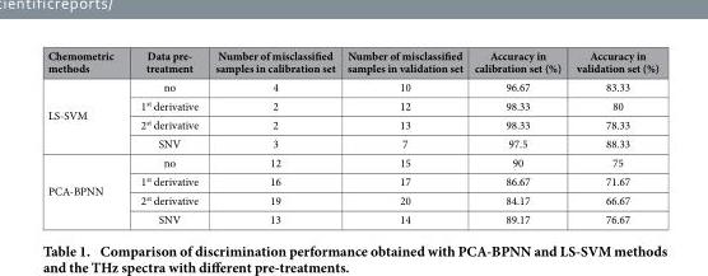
<table><thead><tr><td>Chemometric methods</td><td>Data pre- treatment</td><td>Number of misclassified samples in calibration set</td><td>Number of misclassified samples in validation set</td><td>Accuracy in calibration set (%)</td><td>Accuracy in validation set (%)</td></tr></thead><tbody><tr><td rowspan="4">LS-SVM</td><td>no</td><td>4</td><td>10</td><td>96.67</td><td>83.33</td></tr><tr><td>1<sup>st</sup> derivative</td><td>2</td><td>12</td><td>98.33</td><td>80</td></tr><tr><td>2<sup>st</sup> derivative</td><td>2</td><td>13</td><td>98.33</td><td>78.33</td></tr><tr><td>SNV</td><td>3</td><td>7</td><td>97.5</td><td>88.33</td></tr><tr><td rowspan="4">PCA-BPNN</td><td>no</td><td>12</td><td>15</td><td>90</td><td>75</td></tr><tr><td>1<sup>st</sup> derivative</td><td>16</td><td>17</td><td>86.67</td><td>71.67</td></tr><tr><td>2<sup>st</sup> derivative</td><td>19</td><td>20</td><td>84.17</td><td>66.67</td></tr><tr><td>SNV</td><td>13</td><td>14</td><td>89.17</td><td>76.67</td></tr></tbody></table>